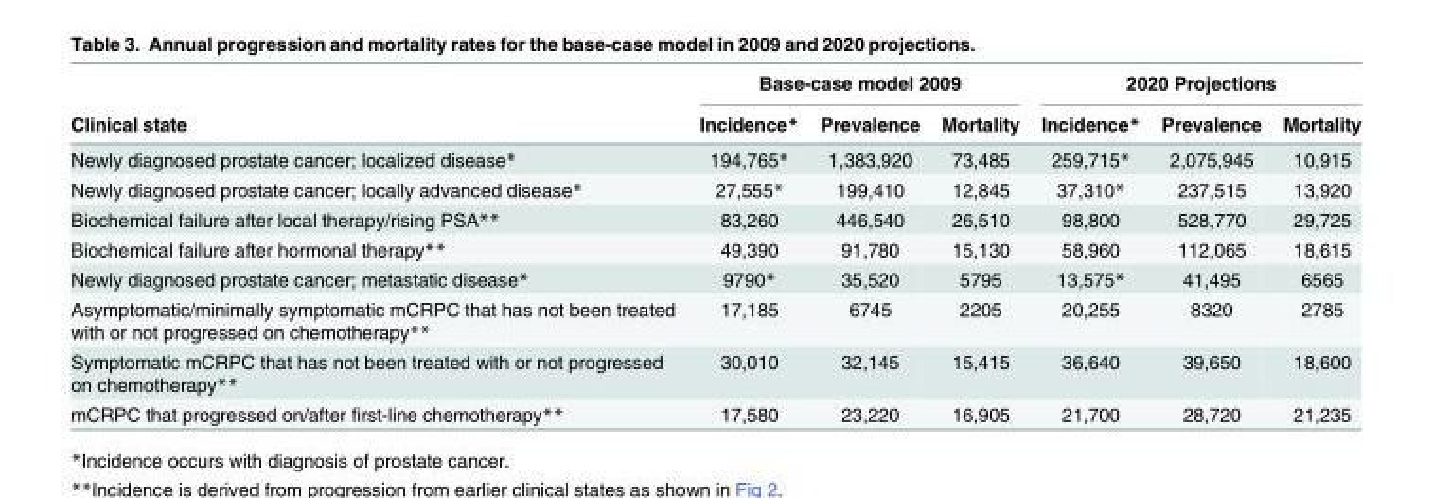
<table><thead><tr><td rowspan="2">Clinical state</td><td colspan="3">Base-case model 2009</td><td colspan="3">2020 Projections</td></tr><tr><td>Incidence*</td><td>Prevalence</td><td>Mortality</td><td>Incidence*</td><td>Prevalence</td><td>Mortality</td></tr></thead><tbody><tr><td>Newly diagnosed prostate cancer; localized disease*</td><td>194,765*</td><td>1,383,920</td><td>73,485</td><td>259,715*</td><td>2,075,945</td><td>10,915</td></tr><tr><td>Newly diagnosed prostate cancer; locally advanced disease*</td><td>27,555*</td><td>199,410</td><td>12,845</td><td>37,310*</td><td>237,515</td><td>13,920</td></tr><tr><td>Biochemical failure after local therapy/rising PSA**</td><td>83,260</td><td>446,540</td><td>26,510</td><td>98,800</td><td>528,770</td><td>29,725</td></tr><tr><td>Biochemical failure after hormonal therapy**</td><td>49,390</td><td>91,780</td><td>15,130</td><td>58,960</td><td>112,065</td><td>18,615</td></tr><tr><td>Newly diagnosed prostate cancer; metastatic disease*</td><td>9790*</td><td>35,520</td><td>5795</td><td>13,575*</td><td>41,495</td><td>6565</td></tr><tr><td>Asymptomatic/minimally symptomatic mCRPC that has not been treated with or not progressed on chemotherapy**</td><td>17,185</td><td>6745</td><td>2205</td><td>20,255</td><td>8320</td><td>2785</td></tr><tr><td>Symptomatic mCRPC that has not been treated with or not progressed on chemotherapy**</td><td>30,010</td><td>32,145</td><td>15,415</td><td>36,640</td><td>39,650</td><td>18,600</td></tr><tr><td>mCRPC that progressed on/after first-line chemotherapy**</td><td>17,580</td><td>23,220</td><td>16,905</td><td>21,700</td><td>28,720</td><td>21,235</td></tr></tbody></table>